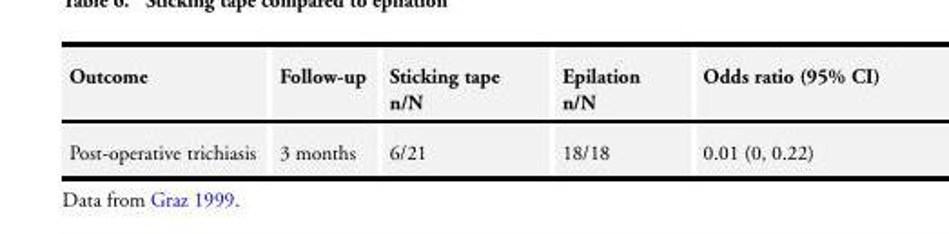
<table><tbody><tr><td>Outcome</td><td>Follow-up</td><td>Sticking tape n/N</td><td>Epilation n/N</td><td>Odds ratio (95% CI)</td></tr><tr><td>Post-operative trichiasis</td><td>3 months</td><td>6/21</td><td>18/18</td><td>0.01 (0, 0.22)</td></tr></tbody></table>